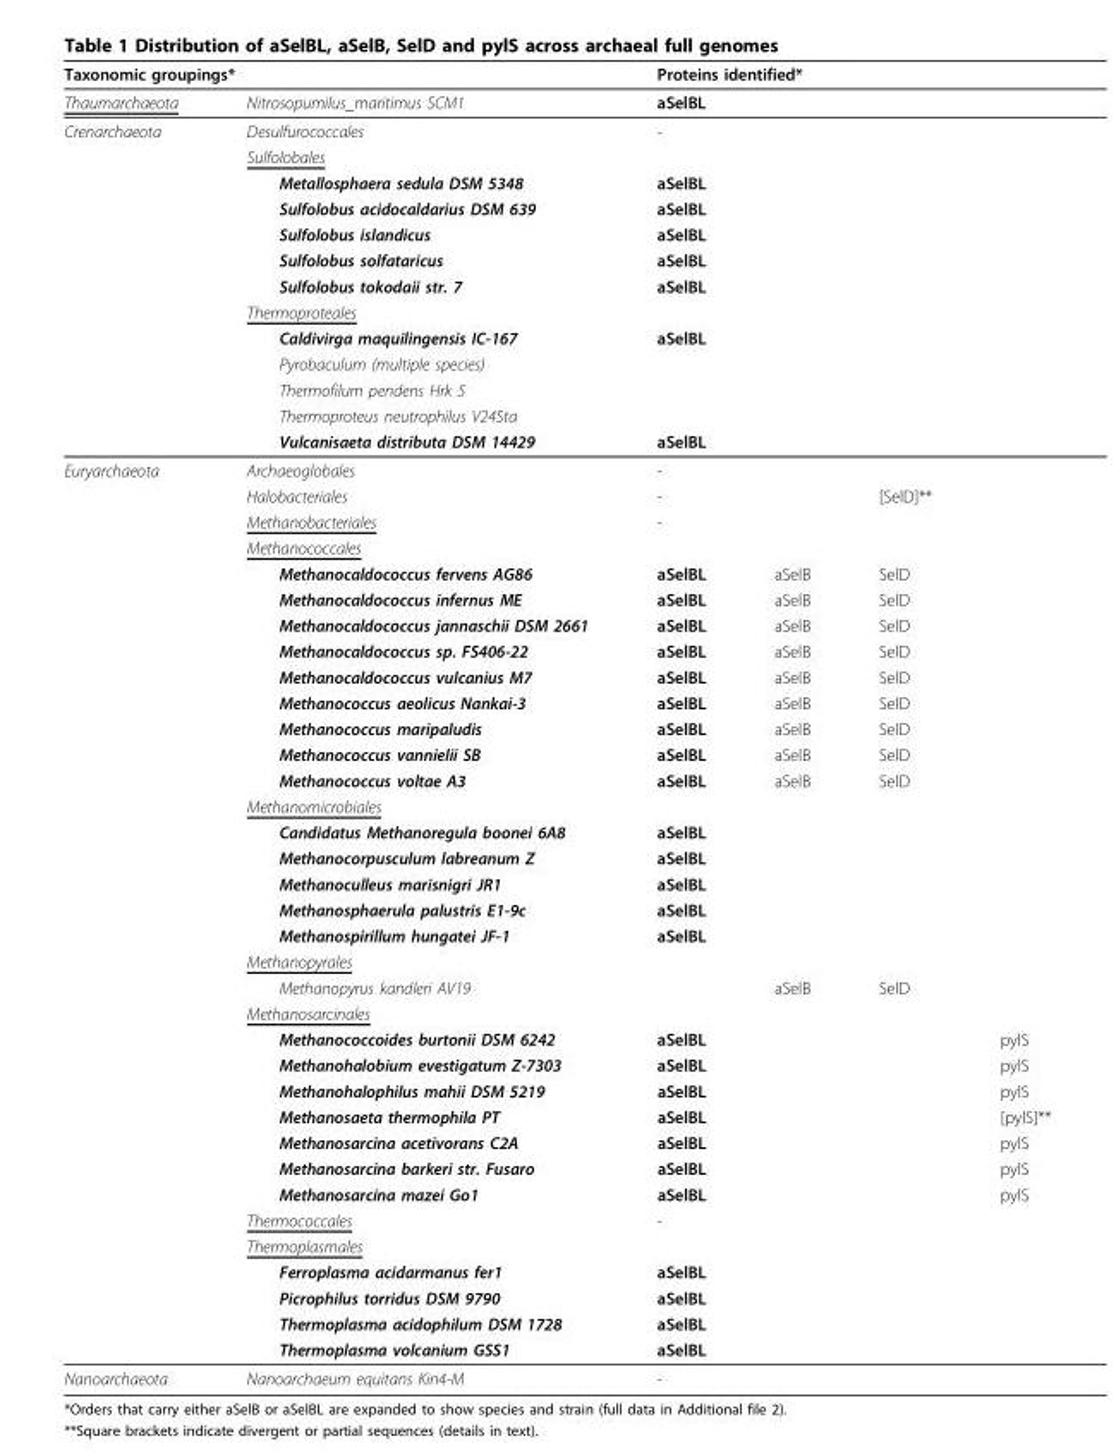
<table><thead><tr><td colspan="2">Taxonomic groupings*</td><td colspan="4">Proteins identified*</td></tr><tr><td>Thaumarchaeota</td><td>Nitrosopumilus_maritimus SCM1</td><td>aSelBL</td><td></td><td></td><td></td></tr></thead><tbody><tr><td rowspan="13">Crenarchaeota</td><td>Desulfurococcales</td><td>-</td><td></td><td></td><td></td></tr><tr><td>Sulfolobales</td><td></td><td></td><td></td><td></td></tr><tr><td>Metallosphaera sedula DSM 5348</td><td>aSelBL</td><td></td><td></td><td></td></tr><tr><td>Sulfolobus acidocaldarius DSM 639</td><td>aSelBL</td><td></td><td></td><td></td></tr><tr><td>Sulfolobus islandicus</td><td>aSelBL</td><td></td><td></td><td></td></tr><tr><td>Sulfolobus solfataricus</td><td>aSelBL</td><td></td><td></td><td></td></tr><tr><td>Sulfolobus tokodaii str. 7</td><td>aSelBL</td><td></td><td></td><td></td></tr><tr><td>Thermoproteales</td><td></td><td></td><td></td><td></td></tr><tr><td>Caldivirga maquilingensis IC-167</td><td>aSelBL</td><td></td><td></td><td></td></tr><tr><td>Pyrobaculum (multiple species)</td><td></td><td></td><td></td><td></td></tr><tr><td>Thermofilum pendens Hrk 5</td><td></td><td></td><td></td><td></td></tr><tr><td>Thermoproteus neutrophilus V24Sta</td><td></td><td></td><td></td><td></td></tr><tr><td>Vulcanisaeta distributa DSM 14429</td><td>aSelBL</td><td></td><td></td><td></td></tr><tr><td rowspan="35">Euryarchaeota</td><td>Archaeoglobales</td><td>-</td><td></td><td></td><td></td></tr><tr><td>Halobacteriales</td><td>-</td><td></td><td>[SelD]**</td><td></td></tr><tr><td>Methanobacteriales</td><td>-</td><td></td><td></td><td></td></tr><tr><td>Methanococcales</td><td></td><td></td><td></td><td></td></tr><tr><td>Methanocaldococcus fervens AG86</td><td>aSelBL</td><td>aSelB</td><td>SelD</td><td></td></tr><tr><td>Methanocaldococcus infernus ME</td><td>aSelBL</td><td>aSelB</td><td>SelD</td><td></td></tr><tr><td>Methanocaldococcus jannaschii DSM 2661</td><td>aSelBL</td><td>aSelB</td><td>SelD</td><td></td></tr><tr><td>Methanocaldococcus sp. FS406-22</td><td>aSelBL</td><td>aSelB</td><td>SelD</td><td></td></tr><tr><td>Methanocaldococcus vulcanius M7</td><td>aSelBL</td><td>aSelB</td><td>SelD</td><td></td></tr><tr><td>Methanococcus aeolicus Nankai-3</td><td>aSelBL</td><td>aSelB</td><td>SelD</td><td></td></tr><tr><td>Methanococcus maripaludis</td><td>aSelBL</td><td>aSelB</td><td>SelD</td><td></td></tr><tr><td>Methanococcus vannielii SB</td><td>aSelBL</td><td>aSelB</td><td>SelD</td><td></td></tr><tr><td>Methanococcus voltae A3</td><td>aSelBL</td><td>aSelB</td><td>SelD</td><td></td></tr><tr><td>Methanomicrobiales</td><td></td><td></td><td></td><td></td></tr><tr><td>Candidatus Methanoregula boonei 6A8</td><td>aSelBL</td><td></td><td></td><td></td></tr><tr><td>Methanocorpusculum labreanum Z</td><td>aSelBL</td><td></td><td></td><td></td></tr><tr><td>Methanoculleus marisnigri JR1</td><td>aSelBL</td><td></td><td></td><td></td></tr><tr><td>Methanosphaerula palustris E1-9c</td><td>aSelBL</td><td></td><td></td><td></td></tr><tr><td>Methanospirillum hungatei JF-1</td><td>aSelBL</td><td></td><td></td><td></td></tr><tr><td>Methanopyrales</td><td></td><td></td><td></td><td></td></tr><tr><td>Methanopyrus kandleri AV19</td><td></td><td>aSelB</td><td>SelD</td><td></td></tr><tr><td>Methanosarcinales</td><td></td><td></td><td></td><td></td></tr><tr><td>Methanococcoides burtonii DSM 6242</td><td>aSelBL</td><td></td><td></td><td>pylS</td></tr><tr><td>Methanohalobium evestigatum Z-7303</td><td>aSelBL</td><td></td><td></td><td>pylS</td></tr><tr><td>Methanohalophilus mahii DSM 5219</td><td>aSelBL</td><td></td><td></td><td>pylS</td></tr><tr><td>Methanosaeta thermophila PT</td><td>aSelBL</td><td></td><td></td><td>[pylS]**</td></tr><tr><td>Methanosarcina acetivorans C2A</td><td>aSelBL</td><td></td><td></td><td>pylS</td></tr><tr><td>Methanosarcina barkeri str. Fusaro</td><td>aSelBL</td><td></td><td></td><td>pylS</td></tr><tr><td>Methanosarcina mazei Go1</td><td>aSelBL</td><td></td><td></td><td>pylS</td></tr><tr><td>Thermococcales</td><td>-</td><td></td><td></td><td></td></tr><tr><td>Thermoplasmales</td><td></td><td></td><td></td><td></td></tr><tr><td>Ferroplasma acidarmanus fer1</td><td>aSelBL</td><td></td><td></td><td></td></tr><tr><td>Picrophilus torridus DSM 9790</td><td>aSelBL</td><td></td><td></td><td></td></tr><tr><td>Thermoplasma acidophilum DSM 1728</td><td>aSelBL</td><td></td><td></td><td></td></tr><tr><td>Thermoplasma volcanium GSS1</td><td>aSelBL</td><td></td><td></td><td></td></tr><tr><td>Nanoarchaeota</td><td>Nanoarchaeum equitans Kin4-M</td><td>-</td><td></td><td></td><td></td></tr></tbody></table>